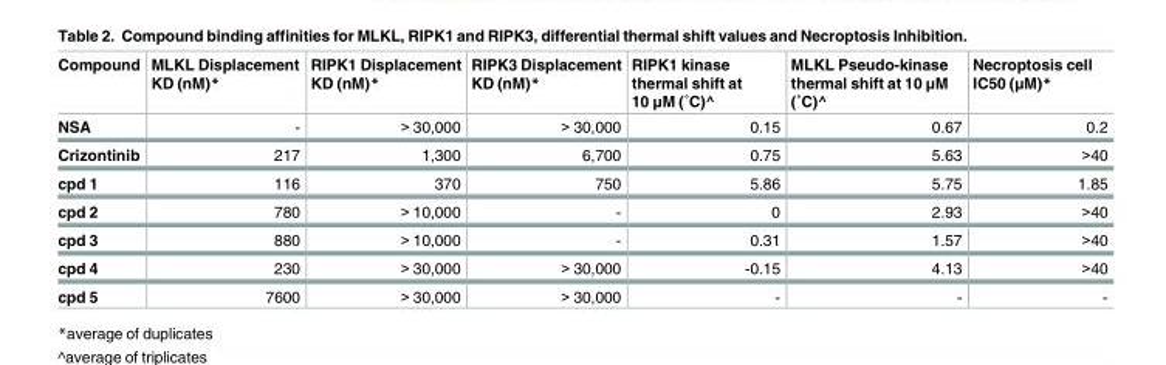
<table><thead><tr><td>Compound</td><td>MLKL Displacement KD (nM)*</td><td>RIPK1 Displacement KD (nM)*</td><td>RIPK3 Displacement KD (nM)*</td><td>RIPK1 kinase thermal shift at 10 μM (˚C)^</td><td>MLKL Pseudo-kinase thermal shift at 10 μM (˚C)^</td><td>Necroptosis cell IC50 (μM)*</td></tr></thead><tbody><tr><td>NSA</td><td>-</td><td>&gt; 30,000</td><td>&gt; 30,000</td><td>0.15</td><td>0.67</td><td>0.2</td></tr><tr><td>Crizontinib</td><td>217</td><td>1,300</td><td>6,700</td><td>0.75</td><td>5.63</td><td>&gt;40</td></tr><tr><td>cpd 1</td><td>116</td><td>370</td><td>750</td><td>5.86</td><td>5.75</td><td>1.85</td></tr><tr><td>cpd 2</td><td>780</td><td>&gt; 10,000</td><td>-</td><td>0</td><td>2.93</td><td>&gt;40</td></tr><tr><td>cpd 3</td><td>880</td><td>&gt; 10,000</td><td>-</td><td>0.31</td><td>1.57</td><td>&gt;40</td></tr><tr><td>cpd 4</td><td>230</td><td>&gt; 30,000</td><td>&gt; 30,000</td><td>-0.15</td><td>4.13</td><td>&gt;40</td></tr><tr><td>cpd 5</td><td>7600</td><td>&gt; 30,000</td><td>&gt; 30,000</td><td>-</td><td>-</td><td>-</td></tr></tbody></table>